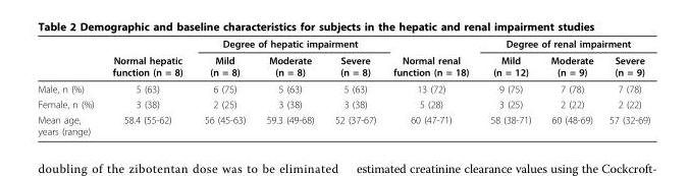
<table><thead><tr><td rowspan="2"></td><td rowspan="2">Normal hepatic function (n = 8)</td><td colspan="3">Degree of hepatic impairment</td><td rowspan="2">Normal renal function (n = 18)</td><td colspan="3">Degree of renal impairment</td></tr><tr><td>Mild (n = 8)</td><td>Moderate (n = 8)</td><td>Severe (n = 8)</td><td>Mild (n = 12)</td><td>Moderate (n = 9)</td><td>Severe (n = 9)</td></tr></thead><tbody><tr><td>Male, n (%)</td><td>5 (63)</td><td>6 (75)</td><td>5 (63)</td><td>5 (63)</td><td>13 (72)</td><td>9 (75)</td><td>7 (78)</td><td>7 (78)</td></tr><tr><td>Female, n (%)</td><td>3 (38)</td><td>2 (25)</td><td>3 (38)</td><td>3 (38)</td><td>5 (28)</td><td>3 (25)</td><td>2 (22)</td><td>2 (22)</td></tr><tr><td>Mean age, years (range)</td><td>58.4 (55-62)</td><td>56 (45-63)</td><td>59.3 (49-68)</td><td>52 (37-67)</td><td>60 (47-71)</td><td>58 (38-71)</td><td>60 (48-69)</td><td>57 (32-69)</td></tr></tbody></table>